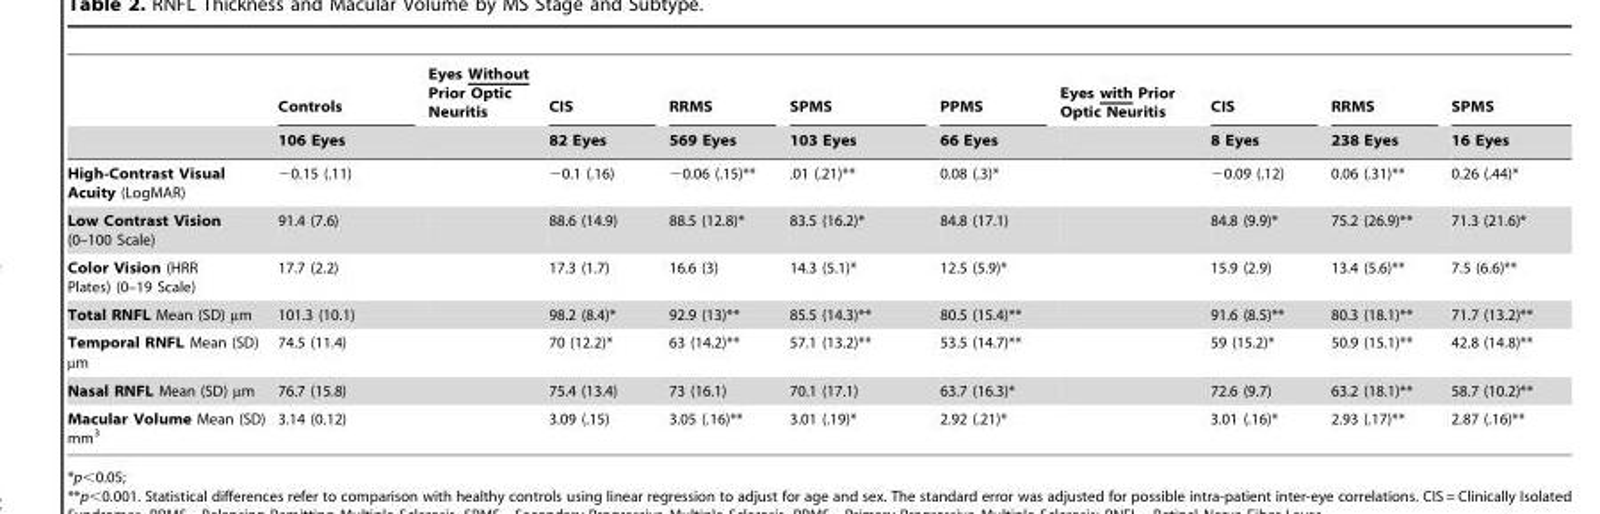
<table><thead><tr><td rowspan="2"></td><td rowspan="2">Controls 106 Eyes</td><td rowspan="2">Eyes Without Prior Optic Neuritis</td><td rowspan="2">CIS 82 Eyes</td><td rowspan="2">RRMS 569 Eyes</td><td rowspan="2">SPMS 103 Eyes</td><td rowspan="2">PPMS 66 Eyes</td><td rowspan="2">Eyes with Prior Optic Neuritis</td><td rowspan="2">CIS 8 Eyes</td><td rowspan="2">RRMS 238 Eyes</td><td rowspan="2">SPMS 16 Eyes</td></tr><tr></tr></thead><tbody><tr><td>High-Contrast Visual Acuity (LogMAR)</td><td>−0.15 (.11)</td><td></td><td>−0.1 (.16)</td><td>−0.06 (.15)**</td><td>.01 (.21)**</td><td>0.08 (.3)*</td><td></td><td>−0.09 (.12)</td><td>0.06 (.31)**</td><td>0.26 (.44)*</td></tr><tr><td>Low Contrast Vision (0–100 Scale)</td><td>91.4 (7.6)</td><td></td><td>88.6 (14.9)</td><td>88.5 (12.8)*</td><td>83.5 (16.2)*</td><td>84.8 (17.1)</td><td></td><td>84.8 (9.9)*</td><td>75.2 (26.9)**</td><td>71.3 (21.6)*</td></tr><tr><td>Color Vision (HRR Plates) (0–19 Scale)</td><td>17.7 (2.2)</td><td></td><td>17.3 (1.7)</td><td>16.6 (3)</td><td>14.3 (5.1)*</td><td>12.5 (5.9)*</td><td></td><td>15.9 (2.9)</td><td>13.4 (5.6)**</td><td>7.5 (6.6)**</td></tr><tr><td>Total RNFL Mean (SD) µm</td><td>101.3 (10.1)</td><td></td><td>98.2 (8.4)*</td><td>92.9 (13)**</td><td>85.5 (14.3)**</td><td>80.5 (15.4)**</td><td></td><td>91.6 (8.5)**</td><td>80.3 (18.1)**</td><td>71.7 (13.2)**</td></tr><tr><td>Temporal RNFL Mean (SD) µm</td><td>74.5 (11.4)</td><td></td><td>70 (12.2)*</td><td>63 (14.2)**</td><td>57.1 (13.2)**</td><td>53.5 (14.7)**</td><td></td><td>59 (15.2)*</td><td>50.9 (15.1)**</td><td>42.8 (14.8)**</td></tr><tr><td>Nasal RNFL Mean (SD) µm</td><td>76.7 (15.8)</td><td></td><td>75.4 (13.4)</td><td>73 (16.1)</td><td>70.1 (17.1)</td><td>63.7 (16.3)*</td><td></td><td>72.6 (9.7)</td><td>63.2 (18.1)**</td><td>58.7 (10.2)**</td></tr><tr><td>Macular Volume Mean (SD) mm<sup>3</sup></td><td>3.14 (0.12)</td><td></td><td>3.09 (.15)</td><td>3.05 (.16)**</td><td>3.01 (.19)*</td><td>2.92 (.21)*</td><td></td><td>3.01 (.16)*</td><td>2.93 (.17)**</td><td>2.87 (.16)**</td></tr></tbody></table>